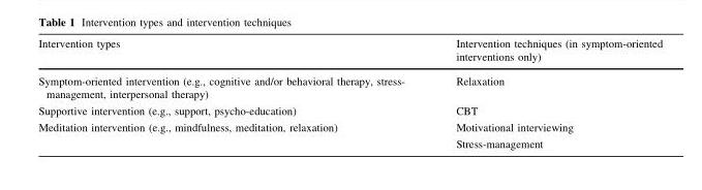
<table><thead><tr><td>Intervention types</td><td>Intervention techniques (in symptom-oriented interventions only)</td></tr></thead><tbody><tr><td>Symptom-oriented intervention (e.g., cognitive and/or behavioral therapy, stress- management, interpersonal therapy)</td><td>Relaxation</td></tr><tr><td>Supportive intervention (e.g., support, psycho-education)</td><td>CBT</td></tr><tr><td rowspan="2">Meditation intervention (e.g., mindfulness, meditation, relaxation)</td><td>Motivational interviewing</td></tr><tr><td>Stress-management</td></tr></tbody></table>